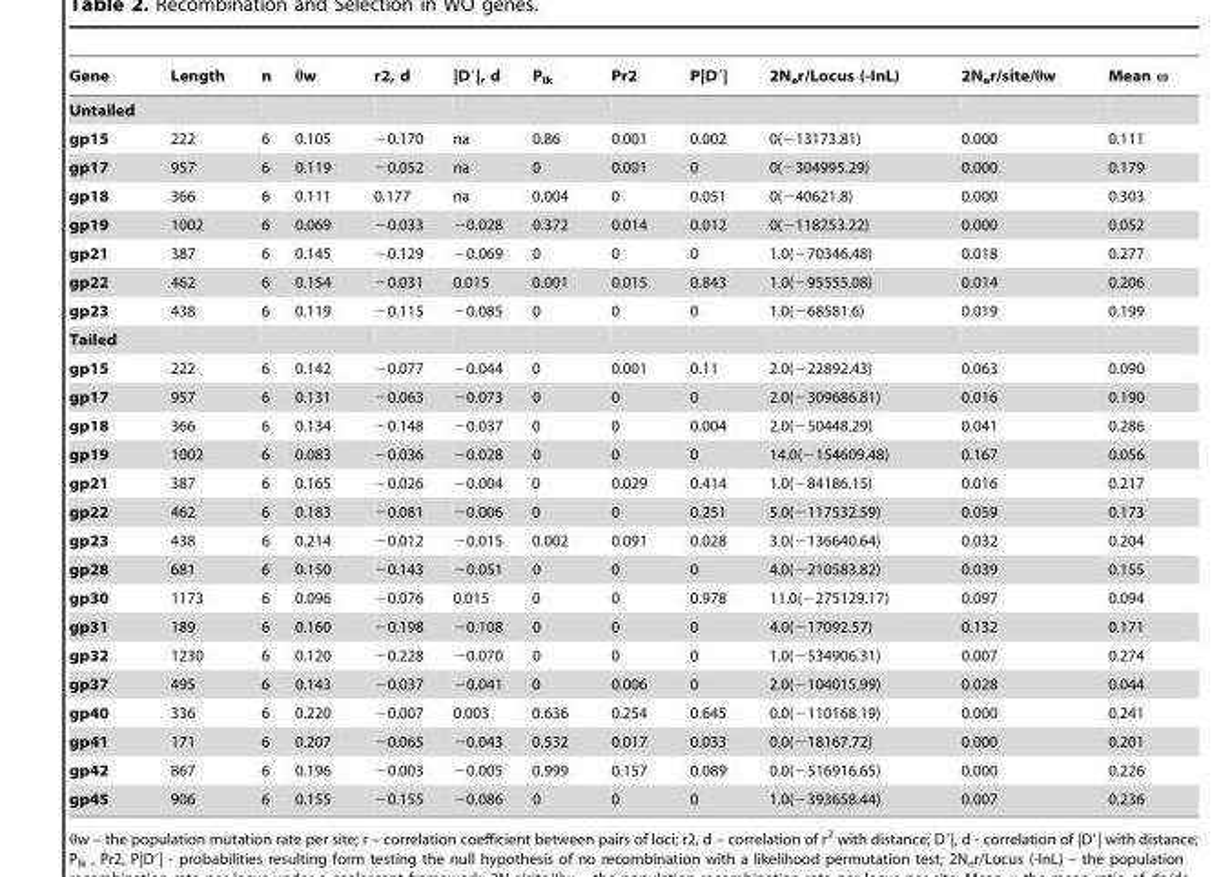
<table><thead><tr><td>Gene</td><td>Length</td><td>n</td><td>θw</td><td>r2, d</td><td>|D′|, d</td><td>P<sub>lk</sub></td><td>Pr2</td><td>P|D′|</td><td>2N<sub>e</sub>r/Locus (-InL)</td><td>2N<sub>e</sub>r/site/θw</td><td>Mean</td></tr></thead><tbody><tr><td colspan="12">Untailed</td></tr><tr><td>gp15</td><td>222</td><td>6</td><td>0.105</td><td>−0.170</td><td>na</td><td>0.86</td><td>0.001</td><td>0.002</td><td>0(−13173.81)</td><td>0.000</td><td>0.111</td></tr><tr><td>gp17</td><td>957</td><td>6</td><td>0.119</td><td>−0.052</td><td>na</td><td>0</td><td>0.001</td><td>0</td><td>0(−304995.29)</td><td>0.000</td><td>0.179</td></tr><tr><td>gp18</td><td>366</td><td>6</td><td>0.111</td><td>0.177</td><td>na</td><td>0.004</td><td>0</td><td>0.051</td><td>0(−40621.8)</td><td>0.000</td><td>0.303</td></tr><tr><td>gp19</td><td>1002</td><td>6</td><td>0.069</td><td>−0.033</td><td>−0.028</td><td>0.372</td><td>0.014</td><td>0.012</td><td>0(−118253.22)</td><td>0.000</td><td>0.052</td></tr><tr><td>gp21</td><td>387</td><td>6</td><td>0.145</td><td>−0.129</td><td>−0.069</td><td>0</td><td>0</td><td>0</td><td>1.0(−70346.48)</td><td>0.018</td><td>0.277</td></tr><tr><td>gp22</td><td>462</td><td>6</td><td>0.154</td><td>−0.031</td><td>0.015</td><td>0.001</td><td>0.015</td><td>0.843</td><td>1.0(−95555.08)</td><td>0.014</td><td>0.206</td></tr><tr><td>gp23</td><td>438</td><td>6</td><td>0.119</td><td>−0.115</td><td>−0.085</td><td>0</td><td>0</td><td>0</td><td>1.0(−68581.6)</td><td>0.019</td><td>0.199</td></tr><tr><td colspan="12">Tailed</td></tr><tr><td>gp15</td><td>222</td><td>6</td><td>0.142</td><td>−0.077</td><td>−0.044</td><td>0</td><td>0.001</td><td>0.11</td><td>2.0(−22892.43)</td><td>0.063</td><td>0.090</td></tr><tr><td>gp17</td><td>957</td><td>6</td><td>0.131</td><td>−0.063</td><td>−0.073</td><td>0</td><td>0</td><td>0</td><td>2.0(−309686.81)</td><td>0.016</td><td>0.190</td></tr><tr><td>gp18</td><td>366</td><td>6</td><td>0.134</td><td>−0.148</td><td>−0.037</td><td>0</td><td>0</td><td>0.004</td><td>2.0(−50448.29)</td><td>0.041</td><td>0.286</td></tr><tr><td>gp19</td><td>1002</td><td>6</td><td>0.083</td><td>−0.036</td><td>−0.028</td><td>0</td><td>0</td><td>0</td><td>14.0(−154609.48)</td><td>0.167</td><td>0.056</td></tr><tr><td>gp21</td><td>387</td><td>6</td><td>0.165</td><td>−0.026</td><td>−0.004</td><td>0</td><td>0.029</td><td>0.414</td><td>1.0(−84186.15)</td><td>0.016</td><td>0.217</td></tr><tr><td>gp22</td><td>462</td><td>6</td><td>0.183</td><td>−0.081</td><td>−0.006</td><td>0</td><td>0</td><td>0.251</td><td>5.0(−117532.59)</td><td>0.059</td><td>0.173</td></tr><tr><td>gp23</td><td>438</td><td>6</td><td>0.214</td><td>−0.012</td><td>−0.015</td><td>0.002</td><td>0.091</td><td>0.028</td><td>3.0(−136640.64)</td><td>0.032</td><td>0.204</td></tr><tr><td>gp28</td><td>681</td><td>6</td><td>0.150</td><td>−0.143</td><td>−0.051</td><td>0</td><td>0</td><td>0</td><td>4.0(−210583.82)</td><td>0.039</td><td>0.155</td></tr><tr><td>gp30</td><td>1173</td><td>6</td><td>0.096</td><td>−0.076</td><td>0.015</td><td>0</td><td>0</td><td>0.978</td><td>11.0(−275129.17)</td><td>0.097</td><td>0.094</td></tr><tr><td>gp31</td><td>189</td><td>6</td><td>0.160</td><td>−0.198</td><td>−0.108</td><td>0</td><td>0</td><td>0</td><td>4.0(−17092.57)</td><td>0.132</td><td>0.171</td></tr><tr><td>gp32</td><td>1230</td><td>6</td><td>0.120</td><td>−0.228</td><td>−0.070</td><td>0</td><td>0</td><td>0</td><td>1.0(−534906.31)</td><td>0.007</td><td>0.274</td></tr><tr><td>gp37</td><td>495</td><td>6</td><td>0.143</td><td>−0.037</td><td>−0.041</td><td>0</td><td>0.006</td><td>0</td><td>2.0(−104015.99)</td><td>0.028</td><td>0.044</td></tr><tr><td>gp40</td><td>336</td><td>6</td><td>0.220</td><td>−0.007</td><td>0.003</td><td>0.636</td><td>0.254</td><td>0.645</td><td>0.0(−110168.19)</td><td>0.000</td><td>0.241</td></tr><tr><td>gp41</td><td>171</td><td>6</td><td>0.207</td><td>−0.065</td><td>−0.043</td><td>0.532</td><td>0.017</td><td>0.033</td><td>0.0(−18167.72)</td><td>0.000</td><td>0.201</td></tr><tr><td>gp42</td><td>867</td><td>6</td><td>0.196</td><td>−0.003</td><td>−0.005</td><td>0.999</td><td>0.157</td><td>0.089</td><td>0.0(−516916.65)</td><td>0.000</td><td>0.226</td></tr><tr><td>gp45</td><td>906</td><td>6</td><td>0.155</td><td>−0.155</td><td>−0.086</td><td>0</td><td>0</td><td>0</td><td>1.0(−393658.44)</td><td>0.007</td><td>0.236</td></tr></tbody></table>